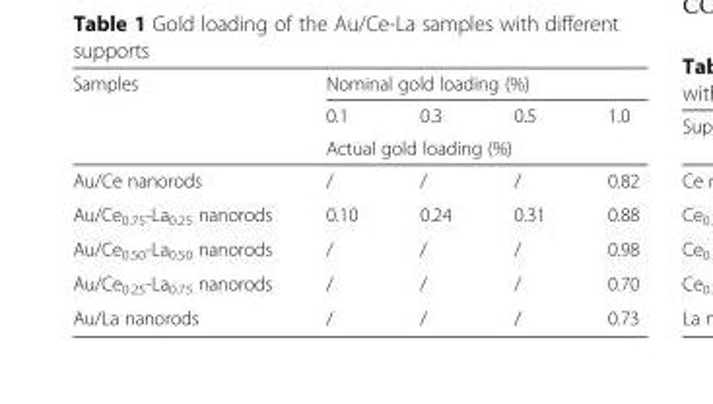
<table><thead><tr><td rowspan="3">Samples</td><td colspan="4">Nominal gold loading (%)</td></tr><tr><td>0.1</td><td>0.3</td><td>0.5</td><td>1.0</td></tr><tr><td colspan="4">Actual gold loading (%)</td></tr></thead><tbody><tr><td>Au/Ce nanorods</td><td>/</td><td>/</td><td>/</td><td>0.82</td></tr><tr><td>Au/Ce<sub>0.75</sub>-La<sub>0.25</sub> nanorods</td><td>0.10</td><td>0.24</td><td>0.31</td><td>0.88</td></tr><tr><td>Au/Ce<sub>0.50</sub>-La<sub>0.50</sub> nanorods</td><td>/</td><td>/</td><td>/</td><td>0.98</td></tr><tr><td>Au/Ce<sub>0.25</sub>-La<sub>0.75</sub> nanorods</td><td>/</td><td>/</td><td>/</td><td>0.70</td></tr><tr><td>Au/La nanorods</td><td>/</td><td>/</td><td>/</td><td>0.73</td></tr></tbody></table>